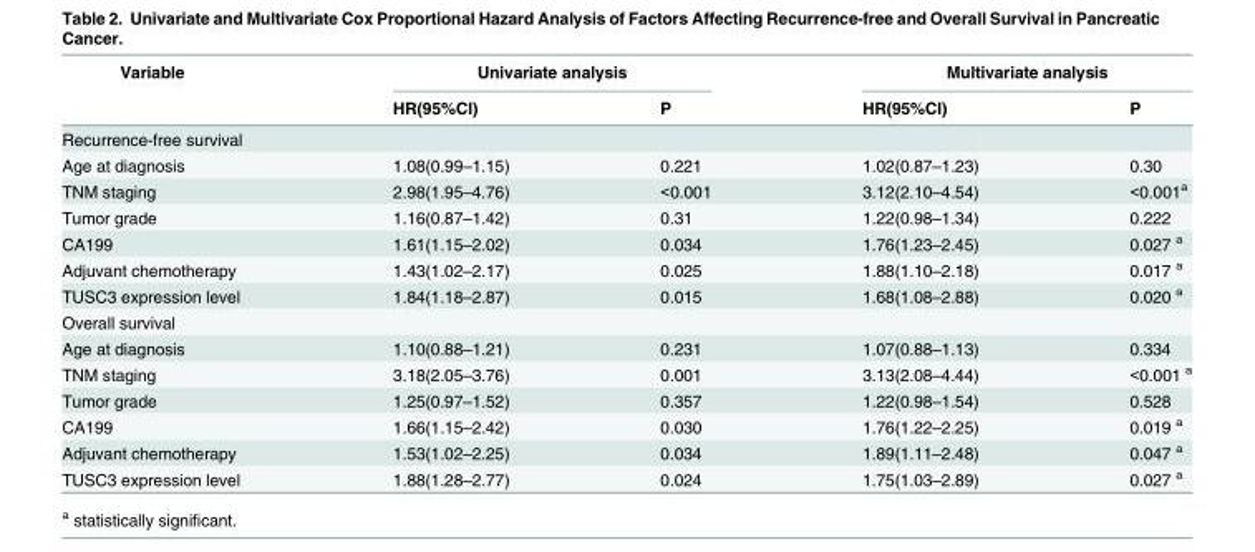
<table><thead><tr><td rowspan="2">Variable</td><td colspan="2">Univariate analysis</td><td colspan="2">Multivariate analysis</td></tr><tr><td>HR(95%CI)</td><td>P</td><td>HR(95%CI)</td><td>P</td></tr></thead><tbody><tr><td colspan="5">Recurrence-free survival</td></tr><tr><td>Age at diagnosis</td><td>1.08(0.99–1.15)</td><td>0.221</td><td>1.02(0.87–1.23)</td><td>0.30</td></tr><tr><td>TNM staging</td><td>2.98(1.95–4.76)</td><td>&lt;0.001</td><td>3.12(2.10–4.54)</td><td>&lt;0.001<sup>a</sup></td></tr><tr><td>Tumor grade</td><td>1.16(0.87–1.42)</td><td>0.31</td><td>1.22(0.98–1.34)</td><td>0.222</td></tr><tr><td>CA199</td><td>1.61(1.15–2.02)</td><td>0.034</td><td>1.76(1.23–2.45)</td><td>0.027 <sup>a</sup></td></tr><tr><td>Adjuvant chemotherapy</td><td>1.43(1.02–2.17)</td><td>0.025</td><td>1.88(1.10–2.18)</td><td>0.017 <sup>a</sup></td></tr><tr><td>TUSC3 expression level</td><td>1.84(1.18–2.87)</td><td>0.015</td><td>1.68(1.08–2.88)</td><td>0.020 <sup>a</sup></td></tr><tr><td colspan="5">Overall survival</td></tr><tr><td>Age at diagnosis</td><td>1.10(0.88–1.21)</td><td>0.231</td><td>1.07(0.88–1.13)</td><td>0.334</td></tr><tr><td>TNM staging</td><td>3.18(2.05–3.76)</td><td>0.001</td><td>3.13(2.08–4.44)</td><td>&lt;0.001 <sup>a</sup></td></tr><tr><td>Tumor grade</td><td>1.25(0.97–1.52)</td><td>0.357</td><td>1.22(0.98–1.54)</td><td>0.528</td></tr><tr><td>CA199</td><td>1.66(1.15–2.42)</td><td>0.030</td><td>1.76(1.22–2.25)</td><td>0.019 <sup>a</sup></td></tr><tr><td>Adjuvant chemotherapy</td><td>1.53(1.02–2.25)</td><td>0.034</td><td>1.89(1.11–2.48)</td><td>0.047 <sup>a</sup></td></tr><tr><td>TUSC3 expression level</td><td>1.88(1.28–2.77)</td><td>0.024</td><td>1.75(1.03–2.89)</td><td>0.027 <sup>a</sup></td></tr></tbody></table>